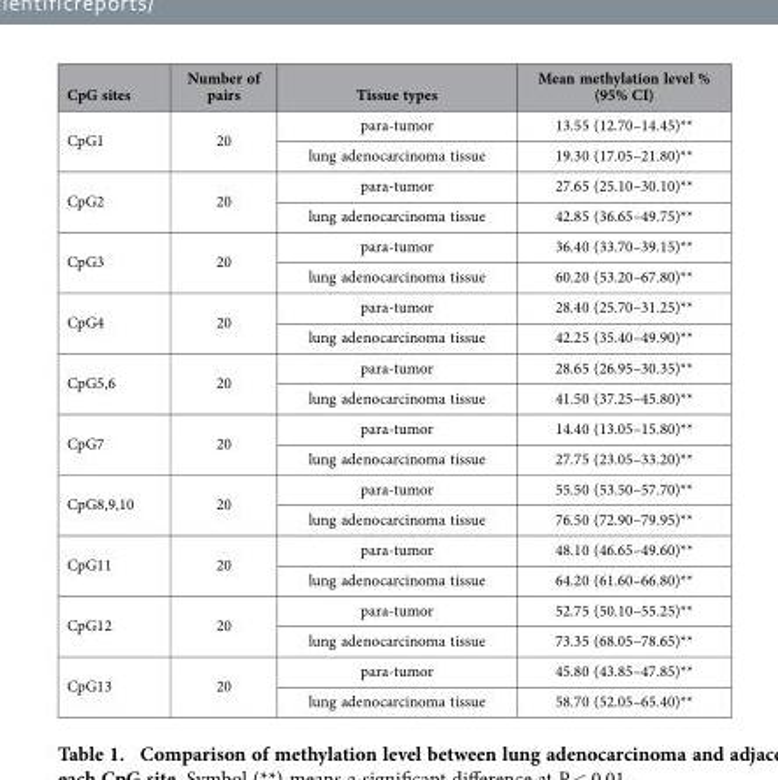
<table><thead><tr><td>CpG sites</td><td>Number of pairs</td><td>Tissue types</td><td>Mean methylation level % (95% CI)</td></tr></thead><tbody><tr><td rowspan="2">CpG1</td><td rowspan="2">20</td><td>para-tumor</td><td>13.55 (12.70–14.45)**</td></tr><tr><td>lung adenocarcinoma tissue</td><td>19.30 (17.05–21.80)**</td></tr><tr><td rowspan="2">CpG2</td><td rowspan="2">20</td><td>para-tumor</td><td>27.65 (25.10–30.10)**</td></tr><tr><td>lung adenocarcinoma tissue</td><td>42.85 (36.65–49.75)**</td></tr><tr><td rowspan="2">CpG3</td><td rowspan="2">20</td><td>para-tumor</td><td>36.40 (33.70–39.15)**</td></tr><tr><td>lung adenocarcinoma tissue</td><td>60.20 (53.20–67.80)**</td></tr><tr><td rowspan="2">CpG4</td><td rowspan="2">20</td><td>para-tumor</td><td>28.40 (25.70–31.25)**</td></tr><tr><td>lung adenocarcinoma tissue</td><td>42.25 (35.40–49.90)**</td></tr><tr><td rowspan="2">CpG5,6</td><td rowspan="2">20</td><td>para-tumor</td><td>28.65 (26.95–30.35)**</td></tr><tr><td>lung adenocarcinoma tissue</td><td>41.50 (37.25–45.80)**</td></tr><tr><td rowspan="2">CpG7</td><td rowspan="2">20</td><td>para-tumor</td><td>14.40 (13.05–15.80)**</td></tr><tr><td>lung adenocarcinoma tissue</td><td>27.75 (23.05–33.20)**</td></tr><tr><td rowspan="2">CpG8,9,10</td><td rowspan="2">20</td><td>para-tumor</td><td>55.50 (53.50–57.70)**</td></tr><tr><td>lung adenocarcinoma tissue</td><td>76.50 (72.90–79.95)**</td></tr><tr><td rowspan="2">CpG11</td><td rowspan="2">20</td><td>para-tumor</td><td>48.10 (46.65–49.60)**</td></tr><tr><td>lung adenocarcinoma tissue</td><td>64.20 (61.60–66.80)**</td></tr><tr><td rowspan="2">CpG12</td><td rowspan="2">20</td><td>para-tumor</td><td>52.75 (50.10–55.25)**</td></tr><tr><td>lung adenocarcinoma tissue</td><td>73.35 (68.05–78.65)**</td></tr><tr><td rowspan="2">CpG13</td><td rowspan="2">20</td><td>para-tumor</td><td>45.80 (43.85–47.85)**</td></tr><tr><td>lung adenocarcinoma tissue</td><td>58.70 (52.05–65.40)**</td></tr></tbody></table>